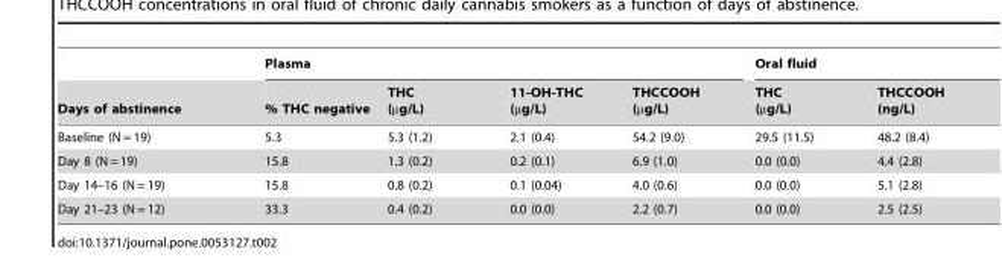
<table><thead><tr><td rowspan="2">Days of abstinence</td><td colspan="4">Plasma</td><td colspan="2">Oral fluid</td></tr><tr><td>% THC negative</td><td>THC (µg/L)</td><td>11-OH-THC (µg/L)</td><td>THCCOOH (µg/L)</td><td>THC (µg/L)</td><td>THCCOOH (ng/L)</td></tr></thead><tbody><tr><td>Baseline (N = 19)</td><td>5.3</td><td>5.3 (1.2)</td><td>2.1 (0.4)</td><td>54.2 (9.0)</td><td>29.5 (11.5)</td><td>48.2 (8.4)</td></tr><tr><td>Day 8 (N = 19)</td><td>15.8</td><td>1.3 (0.2)</td><td>0.2 (0.1)</td><td>6.9 (1.0)</td><td>0.0 (0.0)</td><td>4.4 (2.8)</td></tr><tr><td>Day 14–16 (N = 19)</td><td>15.8</td><td>0.8 (0.2)</td><td>0.1 (0.04)</td><td>4.0 (0.6)</td><td>0.0 (0.0)</td><td>5.1 (2.8)</td></tr><tr><td>Day 21–23 (N = 12)</td><td>33.3</td><td>0.4 (0.2)</td><td>0.0 (0.0)</td><td>2.2 (0.7)</td><td>0.0 (0.0)</td><td>2.5 (2.5)</td></tr></tbody></table>